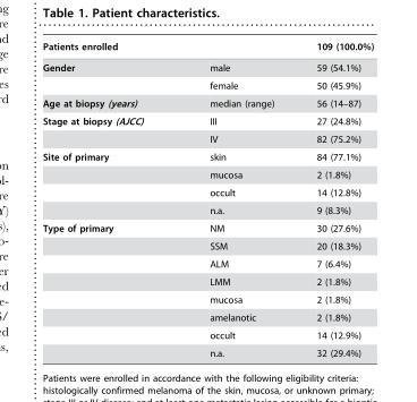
<table><thead><tr><td>Patients enrolled</td><td></td><td>109 (100.0%)</td></tr></thead><tbody><tr><td rowspan="2">Gender</td><td>male</td><td>59 (54.1%)</td></tr><tr><td>female</td><td>50 (45.9%)</td></tr><tr><td>Age at biopsy (years)</td><td>median (range)</td><td>56 (14–87)</td></tr><tr><td rowspan="2">Stage at biopsy (AJCC)</td><td>III</td><td>27 (24.8%)</td></tr><tr><td>IV</td><td>82 (75.2%)</td></tr><tr><td rowspan="4">Site of primary</td><td>skin</td><td>84 (77.1%)</td></tr><tr><td>mucosa</td><td>2 (1.8%)</td></tr><tr><td>occult</td><td>14 (12.8%)</td></tr><tr><td>n.a.</td><td>9 (8.3%)</td></tr><tr><td rowspan="8">Type of primary</td><td>NM</td><td>30 (27.6%)</td></tr><tr><td>SSM</td><td>20 (18.3%)</td></tr><tr><td>ALM</td><td>7 (6.4%)</td></tr><tr><td>LMM</td><td>2 (1.8%)</td></tr><tr><td>mucosa</td><td>2 (1.8%)</td></tr><tr><td>amelanotic</td><td>2 (1.8%)</td></tr><tr><td>occult</td><td>14 (12.9%)</td></tr><tr><td>n.a.</td><td>32 (29.4%)</td></tr></tbody></table>